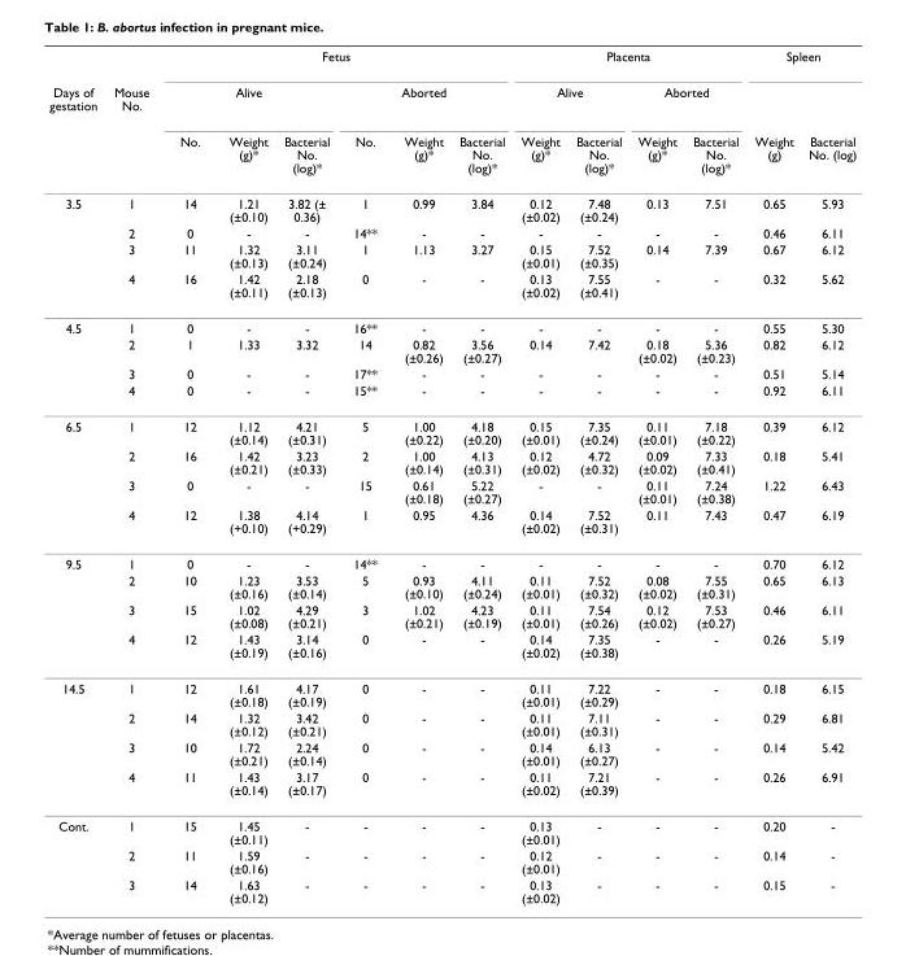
<table><thead><tr><td rowspan="3">Days of gestation</td><td rowspan="3">Mouse No.</td><td colspan="6">Fetus</td><td colspan="4">Placenta</td><td colspan="2">Spleen</td></tr><tr><td colspan="3">Alive</td><td colspan="3">Aborted</td><td colspan="2">Alive</td><td colspan="2">Aborted</td><td rowspan="2">Weight (g)</td><td rowspan="2">Bacterial No. (log)</td></tr><tr><td>No.</td><td>Weight (g)*</td><td>Bacterial No. (log)*</td><td>No.</td><td>Weight (g)*</td><td>Bacterial No. (log)*</td><td>Weight (g)*</td><td>Bacterial No. (log)*</td><td>Weight (g)*</td><td>Bacterial No. (log)*</td></tr></thead><tbody><tr><td rowspan="4">3.5</td><td>1</td><td>14</td><td>1.21 (±0.10)</td><td>3.82 (± 0.36)</td><td>1</td><td>0.99</td><td>3.84</td><td>0.12 (±0.02)</td><td>7.48 (±0.24)</td><td>0.13</td><td>7.51</td><td>0.65</td><td>5.93</td></tr><tr><td>2</td><td>0</td><td>-</td><td>-</td><td>14**</td><td>-</td><td>-</td><td>-</td><td>-</td><td>-</td><td>-</td><td>0.46</td><td>6.11</td></tr><tr><td>3</td><td>11</td><td>1.32 (±0.13)</td><td>3.11 (±0.24)</td><td>1</td><td>1.13</td><td>3.27</td><td>0.15 (±0.01)</td><td>7.52 (±0.35)</td><td>0.14</td><td>7.39</td><td>0.67</td><td>6.12</td></tr><tr><td>4</td><td>16</td><td>1.42 (±0.11)</td><td>2.18 (±0.13)</td><td>0</td><td>-</td><td>-</td><td>0.13 (±0.02)</td><td>7.55 (±0.41)</td><td>-</td><td>-</td><td>0.32</td><td>5.62</td></tr><tr><td rowspan="4">4.5</td><td>1</td><td>0</td><td>-</td><td>-</td><td>16**</td><td>-</td><td>-</td><td>-</td><td>-</td><td>-</td><td>-</td><td>0.55</td><td>5.30</td></tr><tr><td>2</td><td>1</td><td>1.33</td><td>3.32</td><td>14</td><td>0.82 (±0.26)</td><td>3.56 (±0.27)</td><td>0.14</td><td>7.42</td><td>0.18 (±0.02)</td><td>5.36 (±0.23)</td><td>0.82</td><td>6.12</td></tr><tr><td>3</td><td>0</td><td>-</td><td>-</td><td>17**</td><td>-</td><td>-</td><td>-</td><td>-</td><td>-</td><td>-</td><td>0.51</td><td>5.14</td></tr><tr><td>4</td><td>0</td><td>-</td><td>-</td><td>15**</td><td>-</td><td>-</td><td>-</td><td>-</td><td>-</td><td>-</td><td>0.92</td><td>6.11</td></tr><tr><td rowspan="4">6.5</td><td>1</td><td>12</td><td>1.12 (±0.14)</td><td>4.21 (±0.31)</td><td>5</td><td>1.00 (±0.22)</td><td>4.18 (±0.20)</td><td>0.15 (±0.01)</td><td>7.35 (±0.24)</td><td>0.11 (±0.01)</td><td>7.18 (±0.22)</td><td>0.39</td><td>6.12</td></tr><tr><td>2</td><td>16</td><td>1.42 (±0.21)</td><td>3.23 (±0.33)</td><td>2</td><td>1.00 (±0.14)</td><td>4.13 (±0.31)</td><td>0.12 (±0.02)</td><td>4.72 (±0.32)</td><td>0.09 (±0.02)</td><td>7.33 (±0.41)</td><td>0.18</td><td>5.41</td></tr><tr><td>3</td><td>0</td><td>-</td><td>-</td><td>15</td><td>0.61 (±0.18)</td><td>5.22 (±0.27)</td><td>-</td><td>-</td><td>0.11 (±0.01)</td><td>7.24 (±0.38)</td><td>1.22</td><td>6.43</td></tr><tr><td>4</td><td>12</td><td>1.38 (+0.10)</td><td>4.14 (+0.29)</td><td>1</td><td>0.95</td><td>4.36</td><td>0.14 (±0.02)</td><td>7.52 (±0.31)</td><td>0.11</td><td>7.43</td><td>0.47</td><td>6.19</td></tr><tr><td rowspan="4">9.5</td><td>1</td><td>0</td><td>-</td><td>-</td><td>14**</td><td>-</td><td>-</td><td>-</td><td>-</td><td>-</td><td>-</td><td>0.70</td><td>6.12</td></tr><tr><td>2</td><td>10</td><td>1.23 (±0.16)</td><td>3.53 (±0.14)</td><td>5</td><td>0.93 (±0.10)</td><td>4.11 (±0.24)</td><td>0.11 (±0.01)</td><td>7.52 (±0.32)</td><td>0.08 (±0.02)</td><td>7.55 (±0.31)</td><td>0.65</td><td>6.13</td></tr><tr><td>3</td><td>15</td><td>1.02 (±0.08)</td><td>4.29 (±0.21)</td><td>3</td><td>1.02 (±0.21)</td><td>4.23 (±0.19)</td><td>0.11 (±0.01)</td><td>7.54 (±0.26)</td><td>0.12 (±0.02)</td><td>7.53 (±0.27)</td><td>0.46</td><td>6.11</td></tr><tr><td>4</td><td>12</td><td>1.43 (±0.19)</td><td>3.14 (±0.16)</td><td>0</td><td>-</td><td>-</td><td>0.14 (±0.02)</td><td>7.35 (±0.38)</td><td>-</td><td>-</td><td>0.26</td><td>5.19</td></tr><tr><td rowspan="4">14.5</td><td>1</td><td>12</td><td>1.61 (±0.18)</td><td>4.17 (±0.19)</td><td>0</td><td>-</td><td>-</td><td>0.11 (±0.01)</td><td>7.22 (±0.29)</td><td>-</td><td>-</td><td>0.18</td><td>6.15</td></tr><tr><td>2</td><td>14</td><td>1.32 (±0.12)</td><td>3.42 (±0.21)</td><td>0</td><td>-</td><td>-</td><td>0.11 (±0.01)</td><td>7.11 (±0.31)</td><td>-</td><td>-</td><td>0.29</td><td>6.81</td></tr><tr><td>3</td><td>10</td><td>1.72 (±0.21)</td><td>2.24 (±0.14)</td><td>0</td><td>-</td><td>-</td><td>0.14 (±0.01)</td><td>6.13 (±0.27)</td><td>-</td><td>-</td><td>0.14</td><td>5.42</td></tr><tr><td>4</td><td>11</td><td>1.43 (±0.14)</td><td>3.17 (±0.17)</td><td>0</td><td>-</td><td>-</td><td>0.11 (±0.02)</td><td>7.21 (±0.39)</td><td>-</td><td>-</td><td>0.26</td><td>6.91</td></tr><tr><td rowspan="3">Cont.</td><td>1</td><td>15</td><td>1.45 (±0.11)</td><td>-</td><td>-</td><td>-</td><td>-</td><td>0.13 (±0.01)</td><td>-</td><td>-</td><td>-</td><td>0.20</td><td>-</td></tr><tr><td>2</td><td>11</td><td>1.59 (±0.16)</td><td>-</td><td>-</td><td>-</td><td>-</td><td>0.12 (±0.01)</td><td>-</td><td>-</td><td>-</td><td>0.14</td><td>-</td></tr><tr><td>3</td><td>14</td><td>1.63 (±0.12)</td><td>-</td><td>-</td><td>-</td><td>-</td><td>0.13 (±0.02)</td><td>-</td><td>-</td><td>-</td><td>0.15</td><td>-</td></tr></tbody></table>